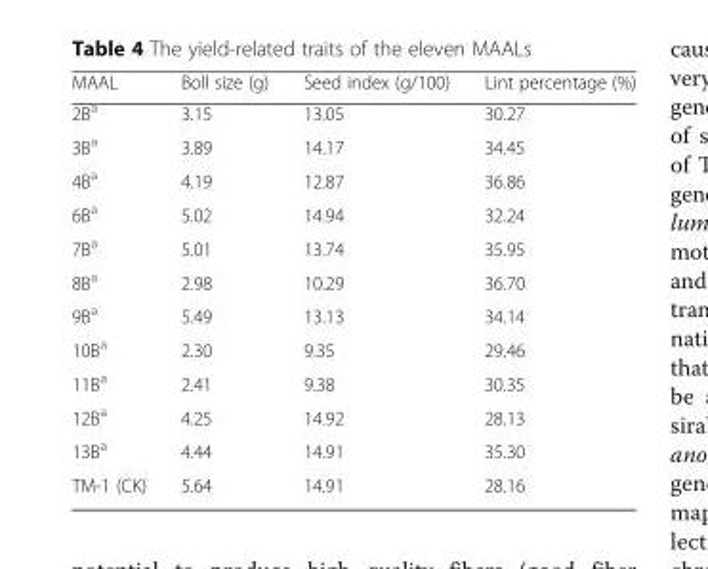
<table><thead><tr><td>MAAL</td><td>Boll size (g)</td><td>Seed index (g/100)</td><td>Lint percentage (%)</td></tr></thead><tbody><tr><td>2B<sup>a</sup></td><td>3.15</td><td>13.05</td><td>30.27</td></tr><tr><td>3B<sup>a</sup></td><td>3.89</td><td>14.17</td><td>34.45</td></tr><tr><td>4B<sup>a</sup></td><td>4.19</td><td>12.87</td><td>36.86</td></tr><tr><td>6B<sup>a</sup></td><td>5.02</td><td>14.94</td><td>32.24</td></tr><tr><td>7B<sup>a</sup></td><td>5.01</td><td>13.74</td><td>35.95</td></tr><tr><td>8B<sup>a</sup></td><td>2.98</td><td>10.29</td><td>36.70</td></tr><tr><td>9B<sup>a</sup></td><td>5.49</td><td>13.13</td><td>34.14</td></tr><tr><td>10B<sup>a</sup></td><td>2.30</td><td>9.35</td><td>29.46</td></tr><tr><td>11B<sup>a</sup></td><td>2.41</td><td>9.38</td><td>30.35</td></tr><tr><td>12B<sup>a</sup></td><td>4.25</td><td>14.92</td><td>28.13</td></tr><tr><td>13B<sup>a</sup></td><td>4.44</td><td>14.91</td><td>35.30</td></tr><tr><td>TM-1 (CK)</td><td>5.64</td><td>14.91</td><td>28.16</td></tr></tbody></table>